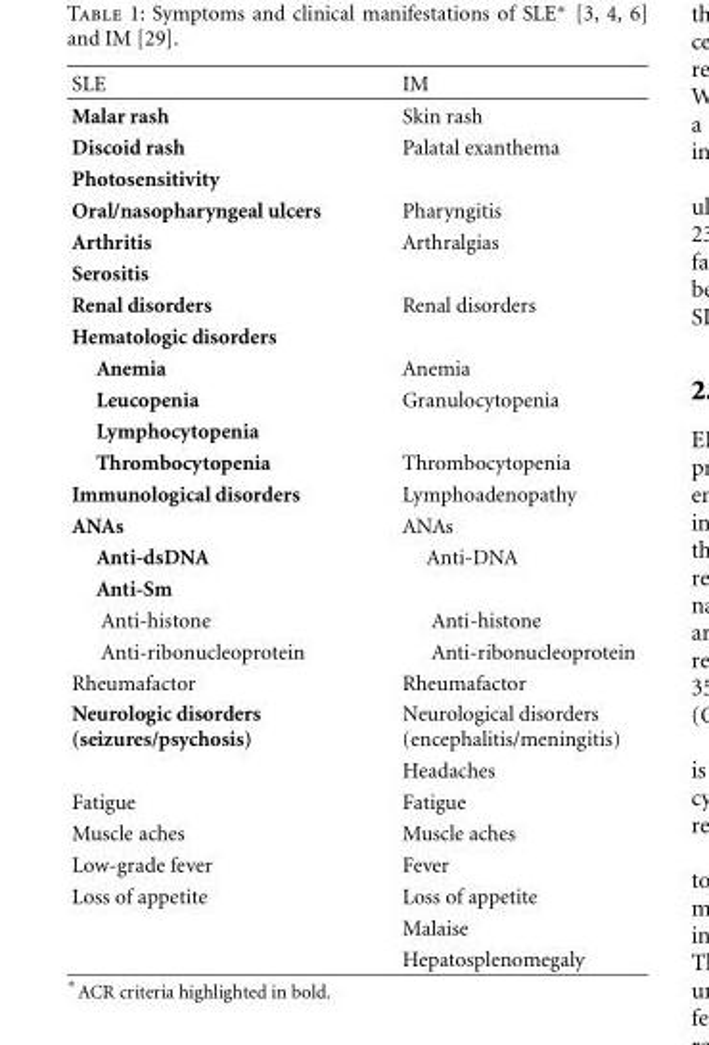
<table><thead><tr><td>SLE</td><td>IM</td></tr></thead><tbody><tr><td>Malar rash</td><td>Skin rash</td></tr><tr><td>Discoid rash</td><td>Palatal exanthema</td></tr><tr><td colspan="2">Photosensitivity</td></tr><tr><td>Oral/nasopharyngeal ulcers</td><td>Pharyngitis</td></tr><tr><td>Arthritis</td><td>Arthralgias</td></tr><tr><td colspan="2">Serositis</td></tr><tr><td>Renal disorders</td><td>Renal disorders</td></tr><tr><td colspan="2">Hematologic disorders</td></tr><tr><td>Anemia</td><td>Anemia</td></tr><tr><td>Leucopenia</td><td>Granulocytopenia</td></tr><tr><td colspan="2">Lymphocytopenia</td></tr><tr><td>Thrombocytopenia</td><td>Thrombocytopenia</td></tr><tr><td>Immunological disorders</td><td>Lymphoadenopathy</td></tr><tr><td>ANAs</td><td>ANAs</td></tr><tr><td>Anti-dsDNA</td><td>Anti-DNA</td></tr><tr><td colspan="2">Anti-Sm</td></tr><tr><td>Anti-histone</td><td>Anti-histone</td></tr><tr><td>Anti-ribonucleoprotein</td><td>Anti-ribonucleoprotein</td></tr><tr><td>Rheumafactor</td><td>Rheumafactor</td></tr><tr><td rowspan="2">Neurologic disorders (seizures/psychosis)</td><td>Neurological disorders (encephalitis/meningitis)</td></tr><tr><td>Headaches</td></tr><tr><td>Fatigue</td><td>Fatigue</td></tr><tr><td>Muscle aches</td><td>Muscle aches</td></tr><tr><td>Low-grade fever</td><td>Fever</td></tr><tr><td rowspan="3">Loss of appetite</td><td>Loss of appetite</td></tr><tr><td>Malaise</td></tr><tr><td>Hepatosplenomegaly</td></tr></tbody></table>